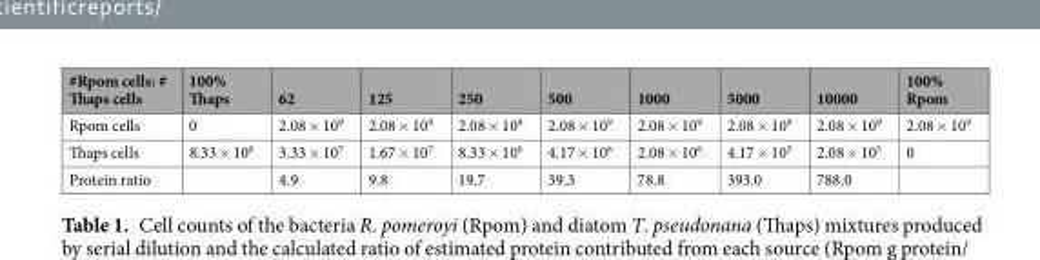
<table><thead><tr><td>#Rpom cells: # Thaps cells</td><td>100% Thaps</td><td>62</td><td>125</td><td>250</td><td>500</td><td>1000</td><td>5000</td><td>10000</td><td>100% Rpom</td></tr></thead><tbody><tr><td>Rpom cells</td><td>0</td><td>2.08 × 10<sup>9</sup></td><td>2.08 × 10<sup>9</sup></td><td>2.08 × 10<sup>9</sup></td><td>2.08 × 10<sup>9</sup></td><td>2.08 × 10<sup>9</sup></td><td>2.08 × 10<sup>9</sup></td><td>2.08 × 10<sup>9</sup></td><td>2.08 × 10<sup>9</sup></td></tr><tr><td>Thaps cells</td><td>8.33 × 10<sup>6</sup></td><td>3.33 × 10<sup>7</sup></td><td>1.67 × 10<sup>7</sup></td><td>8.33 × 10<sup>6</sup></td><td>4.17 × 10<sup>6</sup></td><td>2.08 × 10<sup>6</sup></td><td>4.17 × 10<sup>5</sup></td><td>2.08 × 10<sup>5</sup></td><td>0</td></tr><tr><td>Protein ratio</td><td></td><td>4.9</td><td>9.8</td><td>19.7</td><td>39.3</td><td>78.8</td><td>393.0</td><td>788.0</td><td></td></tr></tbody></table>